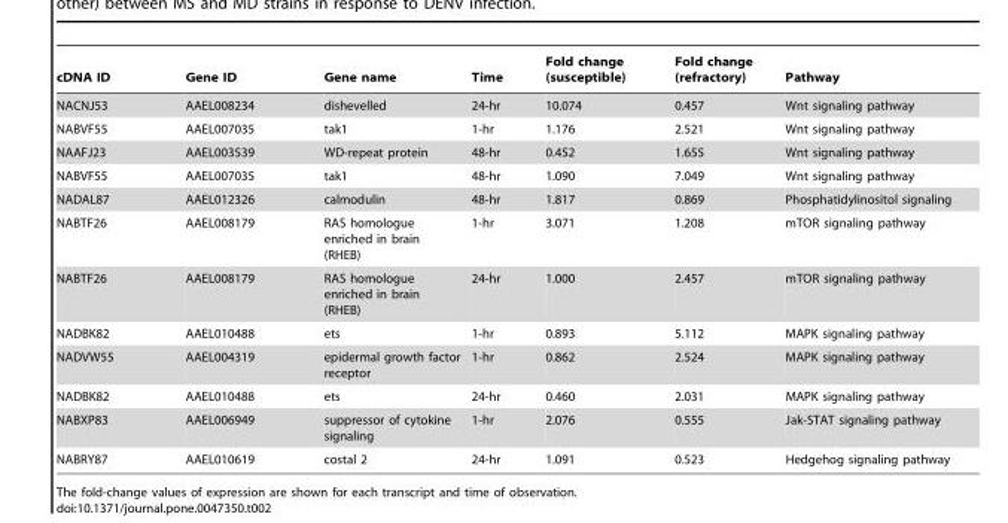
<table><thead><tr><td>cDNA ID</td><td>Gene ID</td><td>Gene name</td><td>Time</td><td>Fold change (susceptible)</td><td>Fold change (refractory)</td><td>Pathway</td></tr></thead><tbody><tr><td>NACNJ53</td><td>AAEL008234</td><td>dishevelled</td><td>24-hr</td><td>10.074</td><td>0.457</td><td>Wnt signaling pathway</td></tr><tr><td>NABVF55</td><td>AAEL007035</td><td>tak1</td><td>1-hr</td><td>1.176</td><td>2.521</td><td>Wnt signaling pathway</td></tr><tr><td>NAAFJ23</td><td>AAEL003539</td><td>WD-repeat protein</td><td>48-hr</td><td>0.452</td><td>1.655</td><td>Wnt signaling pathway</td></tr><tr><td>NABVF55</td><td>AAEL007035</td><td>tak1</td><td>48-hr</td><td>1.090</td><td>7.049</td><td>Wnt signaling pathway</td></tr><tr><td>NADAL87</td><td>AAEL012326</td><td>calmodulin</td><td>48-hr</td><td>1.817</td><td>0.869</td><td>Phosphatidylinositol signaling</td></tr><tr><td>NABTF26</td><td>AAEL008179</td><td>RAS homologue enriched in brain (RHEB)</td><td>1-hr</td><td>3.071</td><td>1.208</td><td>mTOR signaling pathway</td></tr><tr><td>NABTF26</td><td>AAEL008179</td><td>RAS homologue enriched in brain (RHEB)</td><td>24-hr</td><td>1.000</td><td>2.457</td><td>mTOR signaling pathway</td></tr><tr><td>NADBK82</td><td>AAEL010488</td><td>ets</td><td>1-hr</td><td>0.893</td><td>5.112</td><td>MAPK signaling pathway</td></tr><tr><td>NADVW55</td><td>AAEL004319</td><td>epidermal growth factor receptor</td><td>1-hr</td><td>0.862</td><td>2.524</td><td>MAPK signaling pathway</td></tr><tr><td>NADBK82</td><td>AAEL010488</td><td>ets</td><td>24-hr</td><td>0.460</td><td>2.031</td><td>MAPK signaling pathway</td></tr><tr><td>NABXP83</td><td>AAEL006949</td><td>suppressor of cytokine signaling</td><td>1-hr</td><td>2.076</td><td>0.555</td><td>Jak-STAT signaling pathway</td></tr><tr><td>NABRY87</td><td>AAEL010619</td><td>costal 2</td><td>24-hr</td><td>1.091</td><td>0.523</td><td>Hedgehog signaling pathway</td></tr></tbody></table>